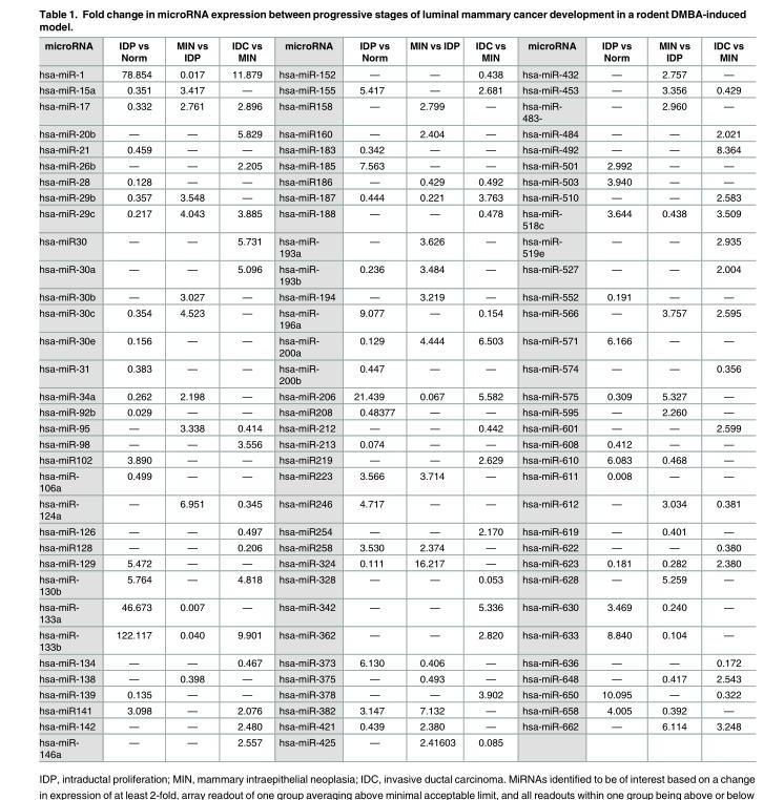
<table><thead><tr><td>microRNA</td><td>IDP vs Norm</td><td>MIN vs IDP</td><td>IDC vs MIN</td><td>microRNA</td><td>IDP vs Norm</td><td>MIN vs IDP</td><td>IDC vs MIN</td><td>microRNA</td><td>IDP vs Norm</td><td>MIN vs IDP</td><td>IDC vs MIN</td></tr></thead><tbody><tr><td>hsa-miR-1</td><td>78.854</td><td>0.017</td><td>11.879</td><td>hsa-miR-152</td><td>—</td><td>—</td><td>0.438</td><td>hsa-miR-432</td><td>—</td><td>2.757</td><td>—</td></tr><tr><td>hsa-miR-15a</td><td>0.351</td><td>3.417</td><td>—</td><td>hsa-miR-155</td><td>5.417</td><td>—</td><td>2.681</td><td>hsa-miR-453</td><td>—</td><td>3.356</td><td>0.429</td></tr><tr><td>hsa-miR-17</td><td>0.332</td><td>2.761</td><td>2.896</td><td>hsa-miR158</td><td>—</td><td>2.799</td><td>—</td><td>hsa-miR- 483-</td><td>—</td><td>2.960</td><td>—</td></tr><tr><td>hsa-miR-20b</td><td>—</td><td>—</td><td>5.829</td><td>hsa-miR160</td><td>—</td><td>2.404</td><td>—</td><td>hsa-miR-484</td><td>—</td><td>—</td><td>2.021</td></tr><tr><td>hsa-miR-21</td><td>0.459</td><td>—</td><td>—</td><td>hsa-miR-183</td><td>0.342</td><td>—</td><td>—</td><td>hsa-miR-492</td><td>—</td><td>—</td><td>8.364</td></tr><tr><td>hsa-miR-26b</td><td>—</td><td>—</td><td>2.205</td><td>hsa-miR-185</td><td>7.563</td><td>—</td><td>—</td><td>hsa-miR-501</td><td>2.992</td><td>—</td><td>—</td></tr><tr><td>hsa-miR-28</td><td>0.128</td><td>—</td><td>—</td><td>hsa-miR186</td><td>—</td><td>0.429</td><td>0.492</td><td>hsa-miR-503</td><td>3.940</td><td>—</td><td>—</td></tr><tr><td>hsa-miR-29b</td><td>0.357</td><td>3.548</td><td>—</td><td>hsa-miR-187</td><td>0.444</td><td>0.221</td><td>3.763</td><td>hsa-miR-510</td><td>—</td><td>—</td><td>2.583</td></tr><tr><td>hsa-miR-29c</td><td>0.217</td><td>4.043</td><td>3.885</td><td>hsa-miR-188</td><td>—</td><td>—</td><td>0.478</td><td>hsa-miR- 518c</td><td>3.644</td><td>0.438</td><td>3.509</td></tr><tr><td>hsa-miR30</td><td>—</td><td>—</td><td>5.731</td><td>hsa-miR- 193a</td><td>—</td><td>3.626</td><td>—</td><td>hsa-miR- 519e</td><td>—</td><td>—</td><td>2.935</td></tr><tr><td>hsa-miR-30a</td><td>—</td><td>—</td><td>5.096</td><td>hsa-miR- 193b</td><td>0.236</td><td>3.484</td><td>—</td><td>hsa-miR-527</td><td>—</td><td>—</td><td>2.004</td></tr><tr><td>hsa-miR-30b</td><td>—</td><td>3.027</td><td>—</td><td>hsa-miR-194</td><td>—</td><td>3.219</td><td>—</td><td>hsa-miR-552</td><td>0.191</td><td>—</td><td>—</td></tr><tr><td>hsa-miR-30c</td><td>0.354</td><td>4.523</td><td>—</td><td>hsa-miR- 196a</td><td>9.077</td><td>—</td><td>0.154</td><td>hsa-miR-566</td><td>—</td><td>3.757</td><td>2.595</td></tr><tr><td>hsa-miR-30e</td><td>0.156</td><td>—</td><td>—</td><td>hsa-miR- 200a</td><td>0.129</td><td>4.444</td><td>6.503</td><td>hsa-miR-571</td><td>6.166</td><td>—</td><td>—</td></tr><tr><td>hsa-miR-31</td><td>0.383</td><td>—</td><td>—</td><td>hsa-miR- 200b</td><td>0.447</td><td>—</td><td>—</td><td>hsa-miR-574</td><td>—</td><td>—</td><td>0.356</td></tr><tr><td>hsa-miR-34a</td><td>0.262</td><td>2.198</td><td>—</td><td>hsa-miR-206</td><td>21.439</td><td>0.067</td><td>5.582</td><td>hsa-miR-575</td><td>0.309</td><td>5.327</td><td>—</td></tr><tr><td>hsa-miR-92b</td><td>0.029</td><td>—</td><td>—</td><td>hsa-miR208</td><td>0.48377</td><td>—</td><td>—</td><td>hsa-miR-595</td><td>—</td><td>2.260</td><td>—</td></tr><tr><td>hsa-miR-95</td><td>—</td><td>3.338</td><td>0.414</td><td>hsa-miR-212</td><td>—</td><td>—</td><td>0.442</td><td>hsa-miR-601</td><td>—</td><td>—</td><td>2.599</td></tr><tr><td>hsa-miR-98</td><td>—</td><td>—</td><td>3.556</td><td>hsa-miR-213</td><td>0.074</td><td>—</td><td>—</td><td>hsa-miR-608</td><td>0.412</td><td>—</td><td>—</td></tr><tr><td>hsa-miR102</td><td>3.890</td><td>—</td><td>—</td><td>hsa-miR219</td><td>—</td><td>—</td><td>2.629</td><td>hsa-miR-610</td><td>6.083</td><td>0.468</td><td>—</td></tr><tr><td>hsa-miR- 106a</td><td>0.499</td><td>―</td><td>—</td><td>hsa-miR223</td><td>3.566</td><td>3.714</td><td>—</td><td>hsa-miR-611</td><td>0.008</td><td>—</td><td>—</td></tr><tr><td>hsa-miR- 124a</td><td>—</td><td>6.951</td><td>0.345</td><td>hsa-miR246</td><td>4.717</td><td>—</td><td>—</td><td>hsa-miR-612</td><td>—</td><td>3.034</td><td>0.381</td></tr><tr><td>hsa-miR-126</td><td>—</td><td>—</td><td>0.497</td><td>hsa-miR254</td><td>—</td><td>—</td><td>2.170</td><td>hsa-miR-619</td><td>—</td><td>0.401</td><td>—</td></tr><tr><td>hsa-miR128</td><td>—</td><td>—</td><td>0.206</td><td>hsa-miR258</td><td>3.530</td><td>2.374</td><td>—</td><td>hsa-miR-622</td><td>—</td><td>—</td><td>0.380</td></tr><tr><td>hsa-miR-129</td><td>5.472</td><td>—</td><td>—</td><td>hsa-miR-324</td><td>0.111</td><td>16.217</td><td>—</td><td>hsa-miR-623</td><td>0.181</td><td>0.282</td><td>2.380</td></tr><tr><td>hsa-miR- 130b</td><td>5.764</td><td>—</td><td>4.818</td><td>hsa-miR-328</td><td>—</td><td>—</td><td>0.053</td><td>hsa-miR-628</td><td>—</td><td>5.259</td><td>—</td></tr><tr><td>hsa-miR- 133a</td><td>46.673</td><td>0.007</td><td>—</td><td>hsa-miR-342</td><td>—</td><td>—</td><td>5.336</td><td>hsa-miR-630</td><td>3.469</td><td>0.240</td><td>—</td></tr><tr><td>hsa-miR- 133b</td><td>122.117</td><td>0.040</td><td>9.901</td><td>hsa-miR-362</td><td>—</td><td>—</td><td>2.820</td><td>hsa-miR-633</td><td>8.840</td><td>0.104</td><td>—</td></tr><tr><td>hsa-miR-134</td><td>—</td><td>—</td><td>0.467</td><td>hsa-miR-373</td><td>6.130</td><td>0.406</td><td>—</td><td>hsa-miR-636</td><td>—</td><td>—</td><td>0.172</td></tr><tr><td>hsa-miR-138</td><td>—</td><td>0.398</td><td>—</td><td>hsa-miR-375</td><td>—</td><td>0.493</td><td>—</td><td>hsa-miR-648</td><td>—</td><td>0.417</td><td>2.543</td></tr><tr><td>hsa-miR-139</td><td>0.135</td><td>—</td><td>—</td><td>hsa-miR-378</td><td>—</td><td>—</td><td>3.902</td><td>hsa-miR-650</td><td>10.095</td><td>—</td><td>0.322</td></tr><tr><td>hsa-miR141</td><td>3.098</td><td>—</td><td>2.076</td><td>hsa-miR-382</td><td>3.147</td><td>7.132</td><td>—</td><td>hsa-miR-658</td><td>4.005</td><td>0.392</td><td>—</td></tr><tr><td>hsa-miR-142</td><td>—</td><td>—</td><td>2.480</td><td>hsa-miR-421</td><td>0.439</td><td>2.380</td><td>—</td><td>hsa-miR-662</td><td>—</td><td>6.114</td><td>3.248</td></tr><tr><td>hsa-miR- 146a</td><td>—</td><td>—</td><td>2.557</td><td>hsa-miR-425</td><td>—</td><td>2.41603</td><td>0.085</td><td></td><td></td><td></td><td></td></tr></tbody></table>